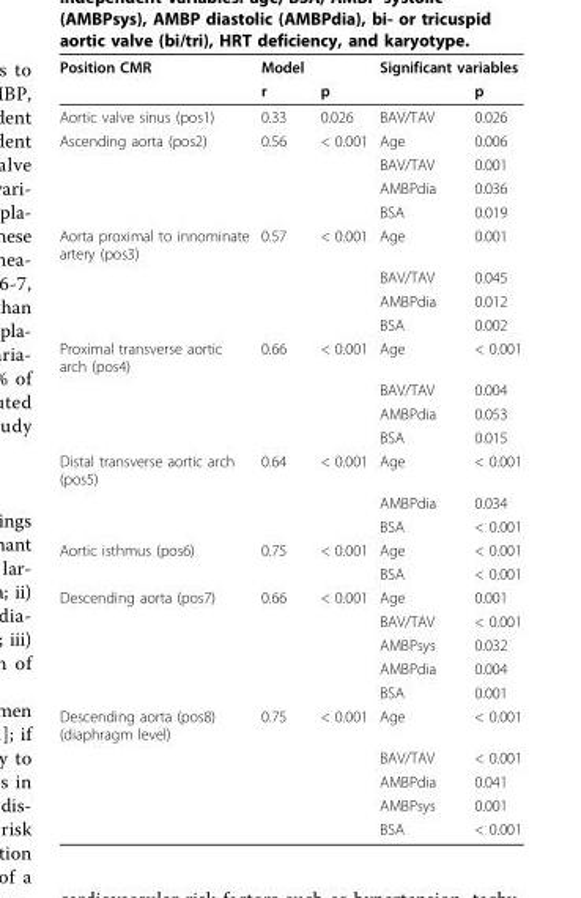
<table><thead><tr><td rowspan="2">Position CMR</td><td colspan="2">Model</td><td colspan="2">Significant variables</td></tr><tr><td>r</td><td>p</td><td></td><td>p</td></tr></thead><tbody><tr><td>Aortic valve sinus (pos1)</td><td>0.33</td><td>0.026</td><td>BAV/TAV</td><td>0.026</td></tr><tr><td rowspan="4">Ascending aorta (pos2)</td><td>0.56</td><td>&lt; 0.001</td><td>Age</td><td>0.006</td></tr><tr><td></td><td></td><td>BAV/TAV</td><td>0.001</td></tr><tr><td></td><td></td><td>AMBPdia</td><td>0.036</td></tr><tr><td></td><td></td><td>BSA</td><td>0.019</td></tr><tr><td rowspan="4">Aorta proximal to innominate artery (pos3)</td><td>0.57</td><td>&lt; 0.001</td><td>Age</td><td>0.001</td></tr><tr><td></td><td></td><td>BAV/TAV</td><td>0.045</td></tr><tr><td></td><td></td><td>AMBPdia</td><td>0.012</td></tr><tr><td></td><td></td><td>BSA</td><td>0.002</td></tr><tr><td rowspan="4">Proximal transverse aortic arch (pos4)</td><td>0.66</td><td>&lt; 0.001</td><td>Age</td><td>&lt; 0.001</td></tr><tr><td></td><td></td><td>BAV/TAV</td><td>0.004</td></tr><tr><td></td><td></td><td>AMBPdia</td><td>0.053</td></tr><tr><td></td><td></td><td>BSA</td><td>0.015</td></tr><tr><td rowspan="3">Distal transverse aortic arch (pos5)</td><td>0.64</td><td>&lt; 0.001</td><td>Age</td><td>&lt; 0.001</td></tr><tr><td></td><td></td><td>AMBPdia</td><td>0.034</td></tr><tr><td></td><td></td><td>BSA</td><td>&lt; 0.001</td></tr><tr><td rowspan="2">Aortic isthmus (pos6)</td><td>0.75</td><td>&lt; 0.001</td><td>Age</td><td>&lt; 0.001</td></tr><tr><td></td><td></td><td>BSA</td><td>&lt; 0.001</td></tr><tr><td rowspan="5">Descending aorta (pos7)</td><td>0.66</td><td>&lt; 0.001</td><td>Age</td><td>0.001</td></tr><tr><td></td><td></td><td>BAV/TAV</td><td>&lt; 0.001</td></tr><tr><td></td><td></td><td>AMBPsys</td><td>0.032</td></tr><tr><td></td><td></td><td>AMBPdia</td><td>0.004</td></tr><tr><td></td><td></td><td>BSA</td><td>0.001</td></tr><tr><td rowspan="5">Descending aorta (pos8) (diaphragm level)</td><td>0.75</td><td>&lt; 0.001</td><td>Age</td><td>&lt; 0.001</td></tr><tr><td></td><td></td><td>BAV/TAV</td><td>&lt; 0.001</td></tr><tr><td></td><td></td><td>AMBPdia</td><td>0.041</td></tr><tr><td></td><td></td><td>AMBPsys</td><td>0.001</td></tr><tr><td></td><td></td><td>BSA</td><td>&lt; 0.001</td></tr></tbody></table>